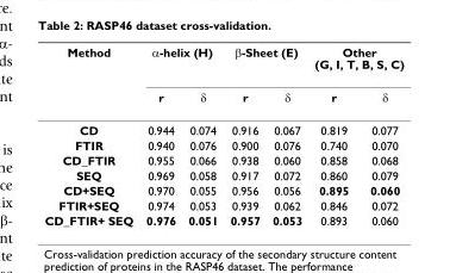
<table><thead><tr><td rowspan="2">Method</td><td colspan="2">α-helix (H)</td><td colspan="2">β-Sheet (E)</td><td colspan="2">Other (G, I, T, B, S, C)</td></tr><tr><td>r</td><td>δ</td><td>r</td><td>δ</td><td>r</td><td>δ</td></tr></thead><tbody><tr><td>CD</td><td>0.944</td><td>0.074</td><td>0.916</td><td>0.067</td><td>0.819</td><td>0.077</td></tr><tr><td>FTIR</td><td>0.940</td><td>0.076</td><td>0.900</td><td>0.076</td><td>0.740</td><td>0.070</td></tr><tr><td>CD_FTIR</td><td>0.955</td><td>0.066</td><td>0.938</td><td>0.060</td><td>0.858</td><td>0.068</td></tr><tr><td>SEQ</td><td>0.969</td><td>0.058</td><td>0.917</td><td>0.072</td><td>0.860</td><td>0.079</td></tr><tr><td>CD+SEQ</td><td>0.970</td><td>0.055</td><td>0.956</td><td>0.056</td><td>0.895</td><td>0.060</td></tr><tr><td>FTIR+SEQ</td><td>0.974</td><td>0.053</td><td>0.939</td><td>0.062</td><td>0.846</td><td>0.072</td></tr><tr><td>CD_FTIR+ SEQ</td><td>0.976</td><td>0.051</td><td>0.957</td><td>0.053</td><td>0.893</td><td>0.060</td></tr></tbody></table>